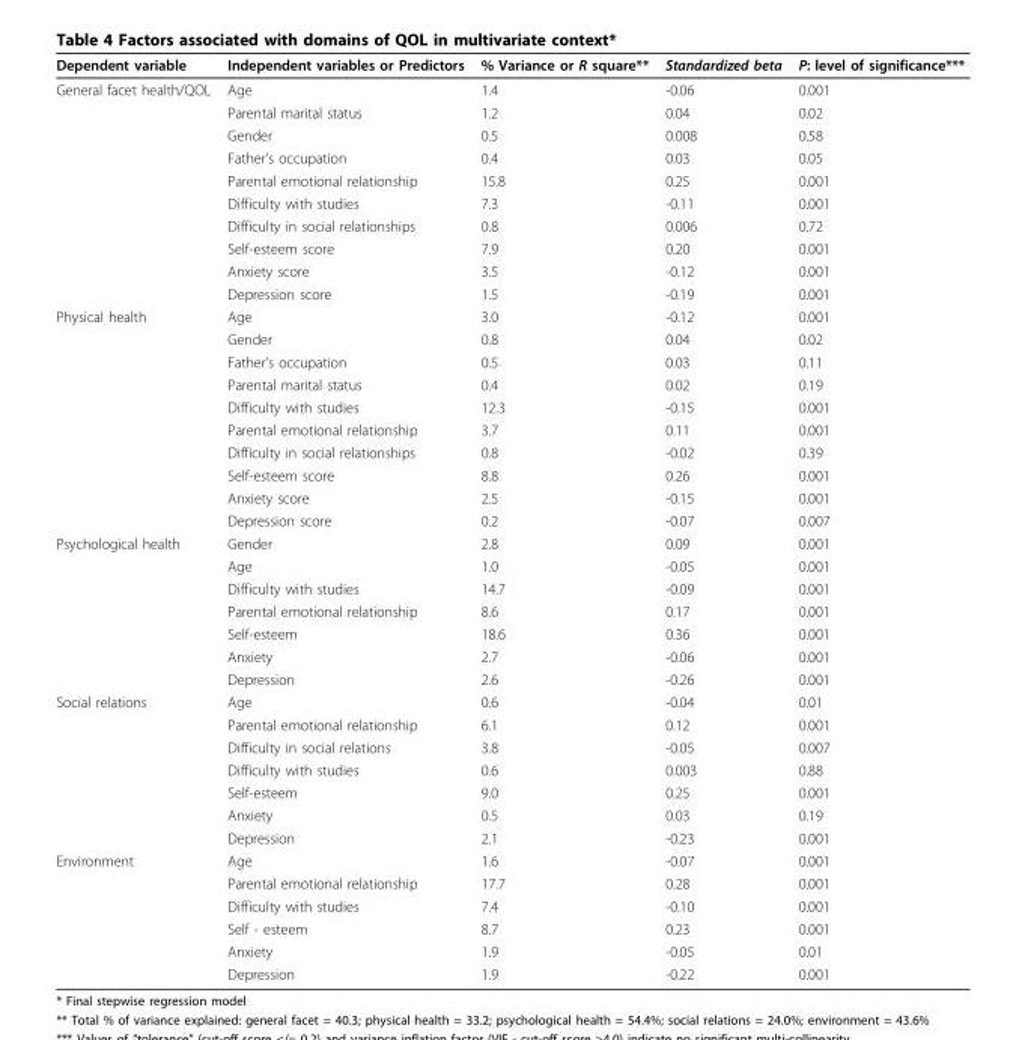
<table><thead><tr><td>Dependent variable</td><td>Independent variables or Predictors</td><td>% Variance or R square**</td><td>Standardized beta</td><td>P: level of significance***</td></tr></thead><tbody><tr><td rowspan="10">General facet health/QOL</td><td>Age</td><td>1.4</td><td>-0.06</td><td>0.001</td></tr><tr><td>Parental marital status</td><td>1.2</td><td>0.04</td><td>0.02</td></tr><tr><td>Gender</td><td>0.5</td><td>0.008</td><td>0.58</td></tr><tr><td>Father’s occupation</td><td>0.4</td><td>0.03</td><td>0.05</td></tr><tr><td>Parental emotional relationship</td><td>15.8</td><td>0.25</td><td>0.001</td></tr><tr><td>Difficulty with studies</td><td>7.3</td><td>-0.11</td><td>0.001</td></tr><tr><td>Difficulty in social relationships</td><td>0.8</td><td>0.006</td><td>0.72</td></tr><tr><td>Self-esteem score</td><td>7.9</td><td>0.20</td><td>0.001</td></tr><tr><td>Anxiety score</td><td>3.5</td><td>-0.12</td><td>0.001</td></tr><tr><td>Depression score</td><td>1.5</td><td>-0.19</td><td>0.001</td></tr><tr><td rowspan="10">Physical health</td><td>Age</td><td>3.0</td><td>-0.12</td><td>0.001</td></tr><tr><td>Gender</td><td>0.8</td><td>0.04</td><td>0.02</td></tr><tr><td>Father’s occupation</td><td>0.5</td><td>0.03</td><td>0.11</td></tr><tr><td>Parental marital status</td><td>0.4</td><td>0.02</td><td>0.19</td></tr><tr><td>Difficulty with studies</td><td>12.3</td><td>-0.15</td><td>0.001</td></tr><tr><td>Parental emotional relationship</td><td>3.7</td><td>0.11</td><td>0.001</td></tr><tr><td>Difficulty in social relationships</td><td>0.8</td><td>-0.02</td><td>0.39</td></tr><tr><td>Self-esteem score</td><td>8.8</td><td>0.26</td><td>0.001</td></tr><tr><td>Anxiety score</td><td>2.5</td><td>-0.15</td><td>0.001</td></tr><tr><td>Depression score</td><td>0.2</td><td>-0.07</td><td>0.007</td></tr><tr><td rowspan="7">Psychological health</td><td>Gender</td><td>2.8</td><td>0.09</td><td>0.001</td></tr><tr><td>Age</td><td>1.0</td><td>-0.05</td><td>0.001</td></tr><tr><td>Difficulty with studies</td><td>14.7</td><td>-0.09</td><td>0.001</td></tr><tr><td>Parental emotional relationship</td><td>8.6</td><td>0.17</td><td>0.001</td></tr><tr><td>Self-esteem</td><td>18.6</td><td>0.36</td><td>0.001</td></tr><tr><td>Anxiety</td><td>2.7</td><td>-0.06</td><td>0.001</td></tr><tr><td>Depression</td><td>2.6</td><td>-0.26</td><td>0.001</td></tr><tr><td rowspan="7">Social relations</td><td>Age</td><td>0.6</td><td>-0.04</td><td>0.01</td></tr><tr><td>Parental emotional relationship</td><td>6.1</td><td>0.12</td><td>0.001</td></tr><tr><td>Difficulty in social relations</td><td>3.8</td><td>-0.05</td><td>0.007</td></tr><tr><td>Difficulty with studies</td><td>0.6</td><td>0.003</td><td>0.88</td></tr><tr><td>Self-esteem</td><td>9.0</td><td>0.25</td><td>0.001</td></tr><tr><td>Anxiety</td><td>0.5</td><td>0.03</td><td>0.19</td></tr><tr><td>Depression</td><td>2.1</td><td>-0.23</td><td>0.001</td></tr><tr><td rowspan="6">Environment</td><td>Age</td><td>1.6</td><td>-0.07</td><td>0.001</td></tr><tr><td>Parental emotional relationship</td><td>17.7</td><td>0.28</td><td>0.001</td></tr><tr><td>Difficulty with studies</td><td>7.4</td><td>-0.10</td><td>0.001</td></tr><tr><td>Self - esteem</td><td>8.7</td><td>0.23</td><td>0.001</td></tr><tr><td>Anxiety</td><td>1.9</td><td>-0.05</td><td>0.01</td></tr><tr><td>Depression</td><td>1.9</td><td>-0.22</td><td>0.001</td></tr></tbody></table>